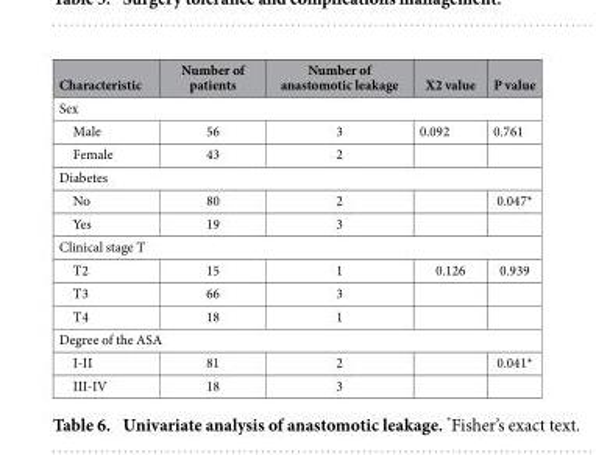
<table><thead><tr><td>Characteristic</td><td>Number of patients</td><td>Number of anastomotic leakage</td><td>X2 value</td><td>P value</td></tr></thead><tbody><tr><td colspan="5">Sex</td></tr><tr><td>Male</td><td>56</td><td>3</td><td>0.092</td><td>0.761</td></tr><tr><td>Female</td><td>43</td><td>2</td><td></td><td></td></tr><tr><td colspan="5">Diabetes</td></tr><tr><td>No</td><td>80</td><td>2</td><td></td><td>0.047*</td></tr><tr><td>Yes</td><td>19</td><td>3</td><td></td><td></td></tr><tr><td colspan="5">Clinical stage T</td></tr><tr><td>T2</td><td>15</td><td>1</td><td>0.126</td><td>0.939</td></tr><tr><td>T3</td><td>66</td><td>3</td><td></td><td></td></tr><tr><td>T4</td><td>18</td><td>1</td><td></td><td></td></tr><tr><td colspan="5">Degree of the ASA</td></tr><tr><td>I-II</td><td>81</td><td>2</td><td></td><td>0.041*</td></tr><tr><td>III-IV</td><td>18</td><td>3</td><td></td><td></td></tr></tbody></table>